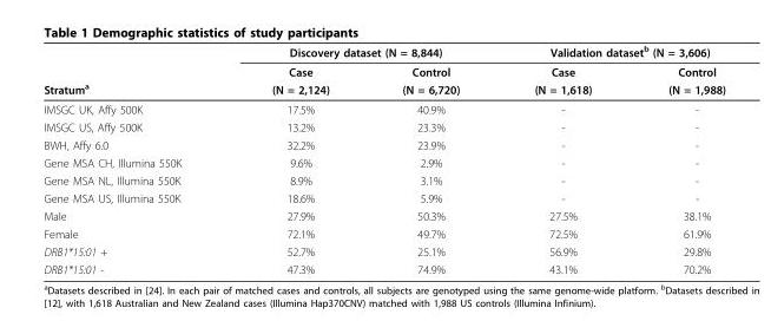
<table><thead><tr><td rowspan="3">Stratum<sup>a</sup></td><td colspan="2">Discovery dataset (N = 8,844)</td><td colspan="2">Validation dataset<sup>b</sup> (N = 3,606)</td></tr><tr><td rowspan="2">Case (N = 2,124)</td><td rowspan="2">Control (N = 6,720)</td><td rowspan="2">Case (N = 1,618)</td><td rowspan="2">Control (N = 1,988)</td></tr><tr></tr></thead><tbody><tr><td>IMSGC UK, Affy 500K</td><td>17.5%</td><td>40.9%</td><td>-</td><td>-</td></tr><tr><td>IMSGC US, Affy 500K</td><td>13.2%</td><td>23.3%</td><td>-</td><td>-</td></tr><tr><td>BWH, Affy 6.0</td><td>32.2%</td><td>23.9%</td><td>-</td><td>-</td></tr><tr><td>Gene MSA CH, Illumina 550K</td><td>9.6%</td><td>2.9%</td><td>-</td><td>-</td></tr><tr><td>Gene MSA NL, Illumina 550K</td><td>8.9%</td><td>3.1%</td><td>-</td><td>-</td></tr><tr><td>Gene MSA US, Illumina 550K</td><td>18.6%</td><td>5.9%</td><td>-</td><td>-</td></tr><tr><td>Male</td><td>27.9%</td><td>50.3%</td><td>27.5%</td><td>38.1%</td></tr><tr><td>Female</td><td>72.1%</td><td>49.7%</td><td>72.5%</td><td>61.9%</td></tr><tr><td>DRB1*15:01 +</td><td>52.7%</td><td>25.1%</td><td>56.9%</td><td>29.8%</td></tr><tr><td>DRB1*15:01 -</td><td>47.3%</td><td>74.9%</td><td>43.1%</td><td>70.2%</td></tr></tbody></table>